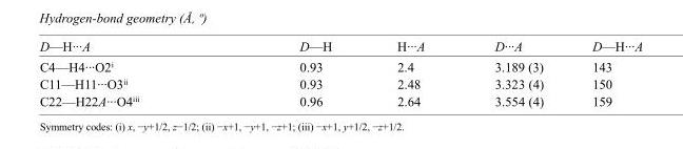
<table><tbody><tr><td>D—H···A</td><td>D—H</td><td>H···A</td><td>D···A</td><td>D—H···A</td></tr><tr><td>C4—H4···O2<sup>i</sup></td><td>0.93</td><td>2.4</td><td>3.189 (3)</td><td>143</td></tr><tr><td>C11—H11···O3<sup>ii</sup></td><td>0.93</td><td>2.48</td><td>3.323 (4)</td><td>150</td></tr><tr><td>C22—H22A···O4<sup>iii</sup></td><td>0.96</td><td>2.64</td><td>3.554 (4)</td><td>159</td></tr></tbody></table>